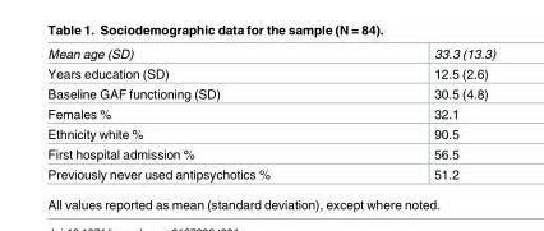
<table><tbody><tr><td>Mean age (SD)</td><td>33.3 (13.3)</td></tr><tr><td>Years education (SD)</td><td>12.5 (2.6)</td></tr><tr><td>Baseline GAF functioning (SD)</td><td>30.5 (4.8)</td></tr><tr><td>Females %</td><td>32.1</td></tr><tr><td>Ethnicity white %</td><td>90.5</td></tr><tr><td>First hospital admission %</td><td>56.5</td></tr><tr><td>Previously never used antipsychotics %</td><td>51.2</td></tr></tbody></table>